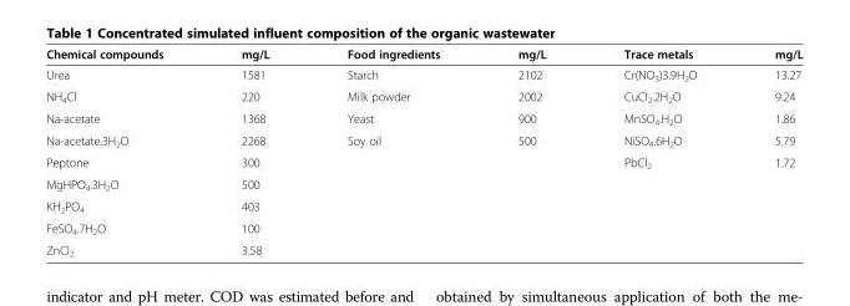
<table><thead><tr><td>Chemical compounds</td><td>mg/L</td><td>Food ingredients</td><td>mg/L</td><td>Trace metals</td><td>mg/L</td></tr></thead><tbody><tr><td>Urea</td><td>1581</td><td>Starch</td><td>2102</td><td>Cr(NO<sub>3</sub>)3.9H<sub>2</sub>O</td><td>13.27</td></tr><tr><td>NH<sub>4</sub>Cl</td><td>220</td><td>Milk powder</td><td>2002</td><td>CuCl<sub>2</sub>.2H<sub>2</sub>O</td><td>9.24</td></tr><tr><td>Na-acetate</td><td>1368</td><td>Yeast</td><td>900</td><td>MnSO<sub>4</sub>.H<sub>2</sub>O</td><td>1.86</td></tr><tr><td>Na-acetate.3H<sub>2</sub>O</td><td>2268</td><td>Soy oil</td><td>500</td><td>NiSO<sub>4</sub>.6H<sub>2</sub>O</td><td>5.79</td></tr><tr><td>Peptone</td><td>300</td><td></td><td></td><td>PbCl<sub>2</sub></td><td>1.72</td></tr><tr><td>MgHPO<sub>4</sub>.3H<sub>2</sub>O</td><td>500</td><td></td><td></td><td></td><td></td></tr><tr><td>KH<sub>2</sub>PO<sub>4</sub></td><td>403</td><td></td><td></td><td></td><td></td></tr><tr><td>FeSO<sub>4</sub>.7H<sub>2</sub>O</td><td>100</td><td></td><td></td><td></td><td></td></tr><tr><td>ZnCl<sub>2</sub></td><td>3.58</td><td></td><td></td><td></td><td></td></tr></tbody></table>